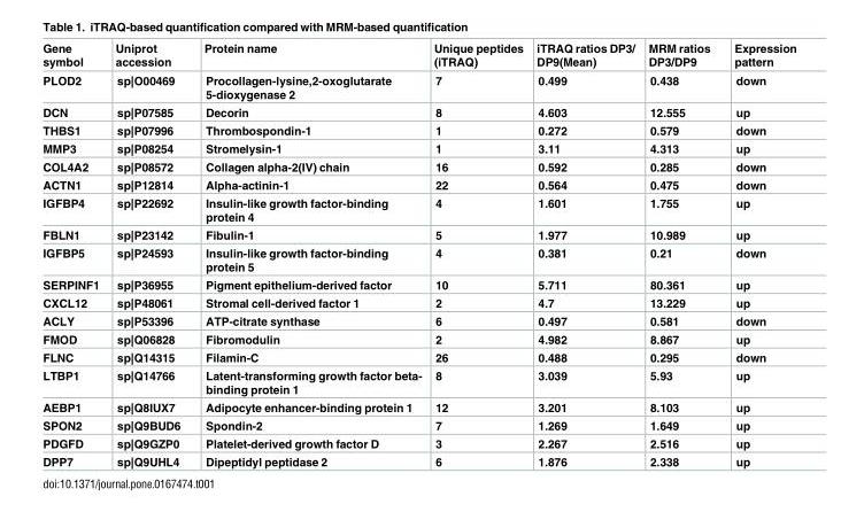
<table><thead><tr><td>Gene symbol</td><td>Uniprot accession</td><td>Protein name</td><td>Unique peptides (iTRAQ)</td><td>iTRAQ ratios DP3/ DP9(Mean)</td><td>MRM ratios DP3/DP9</td><td>Expression pattern</td></tr></thead><tbody><tr><td>PLOD2</td><td>sp|O00469</td><td>Procollagen-lysine,2-oxoglutarate 5-dioxygenase 2</td><td>7</td><td>0.499</td><td>0.438</td><td>down</td></tr><tr><td>DCN</td><td>sp|P07585</td><td>Decorin</td><td>8</td><td>4.603</td><td>12.555</td><td>up</td></tr><tr><td>THBS1</td><td>sp|P07996</td><td>Thrombospondin-1</td><td>1</td><td>0.272</td><td>0.579</td><td>down</td></tr><tr><td>MMP3</td><td>sp|P08254</td><td>Stromelysin-1</td><td>1</td><td>3.11</td><td>4.313</td><td>up</td></tr><tr><td>COL4A2</td><td>sp|P08572</td><td>Collagen alpha-2(IV) chain</td><td>16</td><td>0.592</td><td>0.285</td><td>down</td></tr><tr><td>ACTN1</td><td>sp|P12814</td><td>Alpha-actinin-1</td><td>22</td><td>0.564</td><td>0.475</td><td>down</td></tr><tr><td>IGFBP4</td><td>sp|P22692</td><td>Insulin-like growth factor-binding protein 4</td><td>4</td><td>1.601</td><td>1.755</td><td>up</td></tr><tr><td>FBLN1</td><td>sp|P23142</td><td>Fibulin-1</td><td>5</td><td>1.977</td><td>10.989</td><td>up</td></tr><tr><td>IGFBP5</td><td>sp|P24593</td><td>Insulin-like growth factor-binding protein 5</td><td>4</td><td>0.381</td><td>0.21</td><td>down</td></tr><tr><td>SERPINF1</td><td>sp|P36955</td><td>Pigment epithelium-derived factor</td><td>10</td><td>5.711</td><td>80.361</td><td>up</td></tr><tr><td>CXCL12</td><td>sp|P48061</td><td>Stromal cell-derived factor 1</td><td>2</td><td>4.7</td><td>13.229</td><td>up</td></tr><tr><td>ACLY</td><td>sp|P53396</td><td>ATP-citrate synthase</td><td>6</td><td>0.497</td><td>0.581</td><td>down</td></tr><tr><td>FMOD</td><td>sp|Q06828</td><td>Fibromodulin</td><td>2</td><td>4.982</td><td>8.867</td><td>up</td></tr><tr><td>FLNC</td><td>sp|Q14315</td><td>Filamin-C</td><td>26</td><td>0.488</td><td>0.295</td><td>down</td></tr><tr><td>LTBP1</td><td>sp|Q14766</td><td>Latent-transforming growth factor beta- binding protein 1</td><td>8</td><td>3.039</td><td>5.93</td><td>up</td></tr><tr><td>AEBP1</td><td>sp|Q8IUX7</td><td>Adipocyte enhancer-binding protein 1</td><td>12</td><td>3.201</td><td>8.103</td><td>up</td></tr><tr><td>SPON2</td><td>sp|Q9BUD6</td><td>Spondin-2</td><td>7</td><td>1.269</td><td>1.649</td><td>up</td></tr><tr><td>PDGFD</td><td>sp|Q9GZP0</td><td>Platelet-derived growth factor D</td><td>3</td><td>2.267</td><td>2.516</td><td>up</td></tr><tr><td>DPP7</td><td>sp|Q9UHL4</td><td>Dipeptidyl peptidase 2</td><td>6</td><td>1.876</td><td>2.338</td><td>up</td></tr></tbody></table>